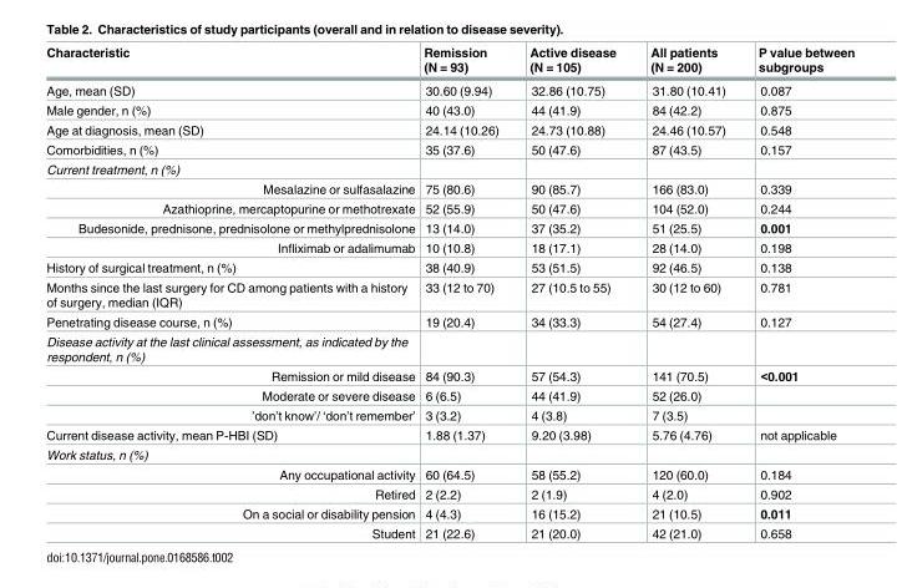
<table><thead><tr><td>Characteristic</td><td>Remission (N = 93)</td><td>Active disease (N = 105)</td><td>All patients (N = 200)</td><td>P value between subgroups</td></tr></thead><tbody><tr><td>Age, mean (SD)</td><td>30.60 (9.94)</td><td>32.86 (10.75)</td><td>31.80 (10.41)</td><td>0.087</td></tr><tr><td>Male gender, n (%)</td><td>40 (43.0)</td><td>44 (41.9)</td><td>84 (42.2)</td><td>0.875</td></tr><tr><td>Age at diagnosis, mean (SD)</td><td>24.14 (10.26)</td><td>24.73 (10.88)</td><td>24.46 (10.57)</td><td>0.548</td></tr><tr><td>Comorbidities, n (%)</td><td>35 (37.6)</td><td>50 (47.6)</td><td>87 (43.5)</td><td>0.157</td></tr><tr><td colspan="5">Current treatment, n (%)</td></tr><tr><td>Mesalazine or sulfasalazine</td><td>75 (80.6)</td><td>90 (85.7)</td><td>166 (83.0)</td><td>0.339</td></tr><tr><td>Azathioprine, mercaptopurine or methotrexate</td><td>52 (55.9)</td><td>50 (47.6)</td><td>104 (52.0)</td><td>0.244</td></tr><tr><td>Budesonide, prednisone, prednisolone or methylprednisolone</td><td>13 (14.0)</td><td>37 (35.2)</td><td>51 (25.5)</td><td>0.001</td></tr><tr><td>Infliximab or adalimumab</td><td>10 (10.8)</td><td>18 (17.1)</td><td>28 (14.0)</td><td>0.198</td></tr><tr><td>History of surgical treatment, n (%)</td><td>38 (40.9)</td><td>53 (51.5)</td><td>92 (46.5)</td><td>0.138</td></tr><tr><td>Months since the last surgery for CD among patients with a history of surgery, median (IQR)</td><td>33 (12 to 70)</td><td>27 (10.5 to 55)</td><td>30 (12 to 60)</td><td>0.781</td></tr><tr><td>Penetrating disease course, n (%)</td><td>19 (20.4)</td><td>34 (33.3)</td><td>54 (27.4)</td><td>0.127</td></tr><tr><td colspan="5">Disease activity at the last clinical assessment, as indicated by the respondent, n (%)</td></tr><tr><td>Remission or mild disease</td><td>84 (90.3)</td><td>57 (54.3)</td><td>141 (70.5)</td><td>&lt;0.001</td></tr><tr><td>Moderate or severe disease</td><td>6 (6.5)</td><td>44 (41.9)</td><td>52 (26.0)</td><td></td></tr><tr><td>’don’t know’/ ‘don’t remember’</td><td>3 (3.2)</td><td>4 (3.8)</td><td>7 (3.5)</td><td></td></tr><tr><td>Current disease activity, mean P-HBI (SD)</td><td>1.88 (1.37)</td><td>9.20 (3.98)</td><td>5.76 (4.76)</td><td>not applicable</td></tr><tr><td colspan="5">Work status, n (%)</td></tr><tr><td>Any occupational activity</td><td>60 (64.5)</td><td>58 (55.2)</td><td>120 (60.0)</td><td>0.184</td></tr><tr><td>Retired</td><td>2 (2.2)</td><td>2 (1.9)</td><td>4 (2.0)</td><td>0.902</td></tr><tr><td>On a social or disability pension</td><td>4 (4.3)</td><td>16 (15.2)</td><td>21 (10.5)</td><td>0.011</td></tr><tr><td>Student</td><td>21 (22.6)</td><td>21 (20.0)</td><td>42 (21.0)</td><td>0.658</td></tr></tbody></table>